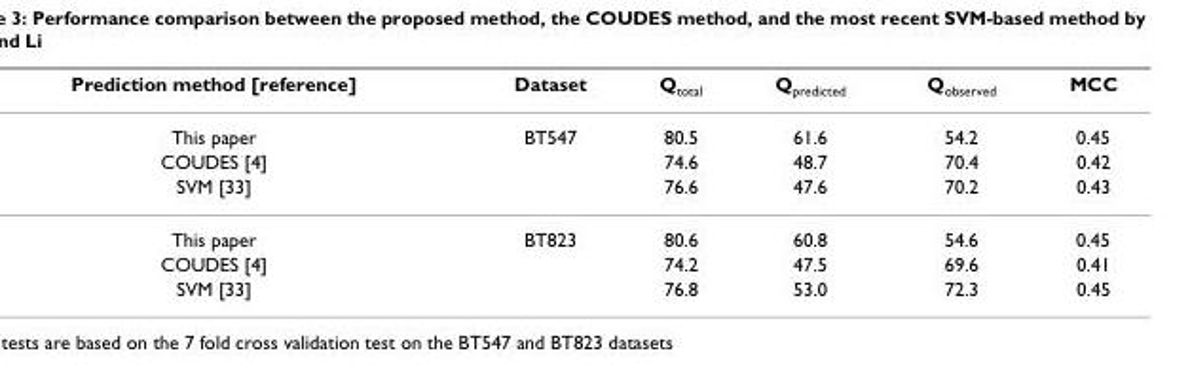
<table><thead><tr><td>Prediction method [reference]</td><td>Dataset</td><td>Q<sub>total</sub></td><td>Q<sub>predicted</sub></td><td>Q<sub>observed</sub></td><td>MCC</td></tr></thead><tbody><tr><td>This paper</td><td>BT547</td><td>80.5</td><td>61.6</td><td>54.2</td><td>0.45</td></tr><tr><td>COUDES [4]</td><td></td><td>74.6</td><td>48.7</td><td>70.4</td><td>0.42</td></tr><tr><td>SVM [33]</td><td></td><td>76.6</td><td>47.6</td><td>70.2</td><td>0.43</td></tr><tr><td>This paper</td><td>BT823</td><td>80.6</td><td>60.8</td><td>54.6</td><td>0.45</td></tr><tr><td>COUDES [4]</td><td></td><td>74.2</td><td>47.5</td><td>69.6</td><td>0.41</td></tr><tr><td>SVM [33]</td><td></td><td>76.8</td><td>53.0</td><td>72.3</td><td>0.45</td></tr></tbody></table>